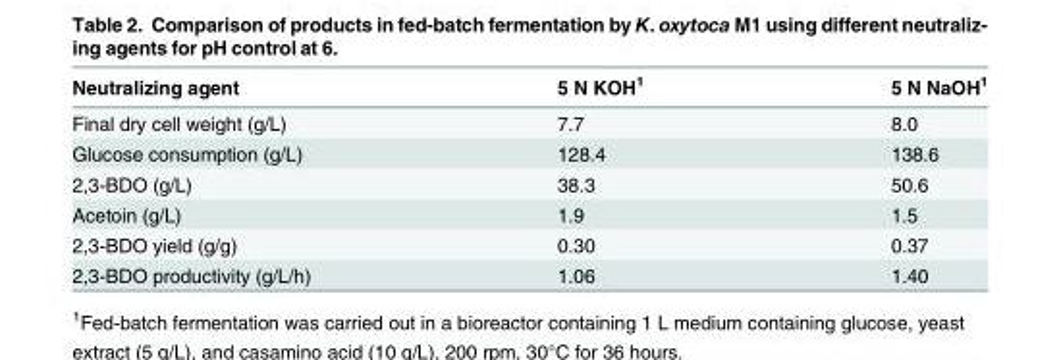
<table><thead><tr><td>Neutralizing agent</td><td>5 N KOH<sup>1</sup></td><td>5 N NaOH<sup>1</sup></td></tr></thead><tbody><tr><td>Final dry cell weight (g/L)</td><td>7.7</td><td>8.0</td></tr><tr><td>Glucose consumption (g/L)</td><td>128.4</td><td>138.6</td></tr><tr><td>2,3-BDO (g/L)</td><td>38.3</td><td>50.6</td></tr><tr><td>Acetoin (g/L)</td><td>1.9</td><td>1.5</td></tr><tr><td>2,3-BDO yield (g/g)</td><td>0.30</td><td>0.37</td></tr><tr><td>2,3-BDO productivity (g/L/h)</td><td>1.06</td><td>1.40</td></tr></tbody></table>